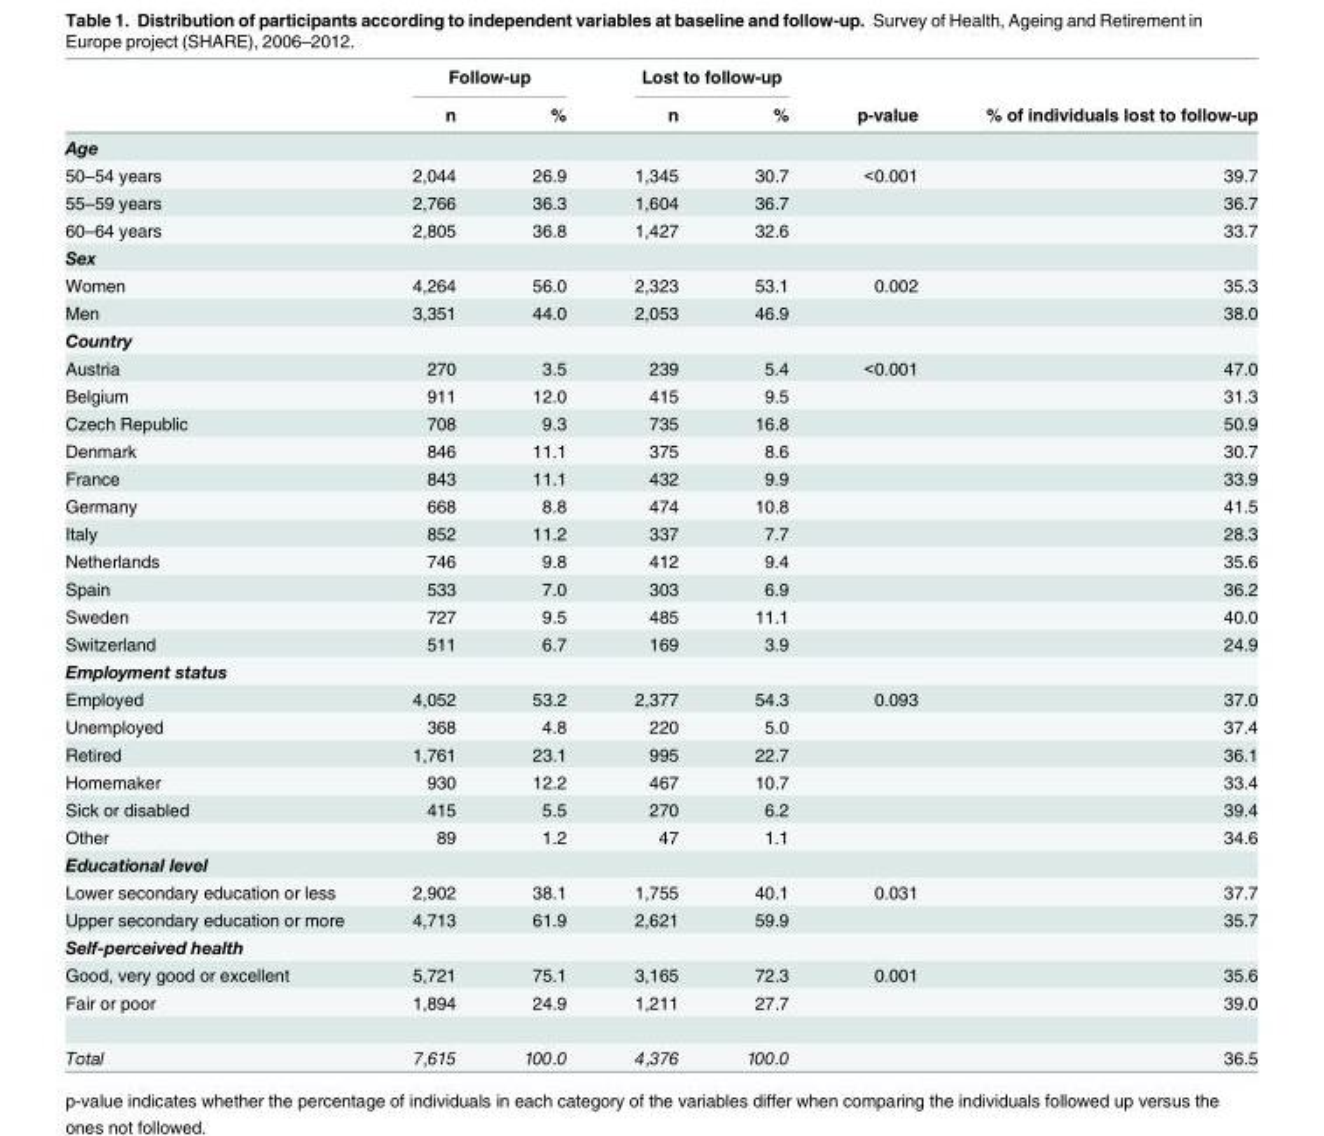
<table><thead><tr><td rowspan="2"></td><td colspan="2">Follow-up</td><td colspan="2">Lost to follow-up</td><td rowspan="2">p-value</td><td rowspan="2">% of individuals lost to follow-up</td></tr><tr><td>n</td><td>%</td><td>n</td><td>%</td></tr></thead><tbody><tr><td colspan="7">Age</td></tr><tr><td>50–54 years</td><td>2,044</td><td>26.9</td><td>1,345</td><td>30.7</td><td>&lt;0.001</td><td>39.7</td></tr><tr><td>55–59 years</td><td>2,766</td><td>36.3</td><td>1,604</td><td>36.7</td><td></td><td>36.7</td></tr><tr><td>60–64 years</td><td>2,805</td><td>36.8</td><td>1,427</td><td>32.6</td><td></td><td>33.7</td></tr><tr><td colspan="7">Sex</td></tr><tr><td>Women</td><td>4,264</td><td>56.0</td><td>2,323</td><td>53.1</td><td>0.002</td><td>35.3</td></tr><tr><td>Men</td><td>3,351</td><td>44.0</td><td>2,053</td><td>46.9</td><td></td><td>38.0</td></tr><tr><td colspan="7">Country</td></tr><tr><td>Austria</td><td>270</td><td>3.5</td><td>239</td><td>5.4</td><td>&lt;0.001</td><td>47.0</td></tr><tr><td>Belgium</td><td>911</td><td>12.0</td><td>415</td><td>9.5</td><td></td><td>31.3</td></tr><tr><td>Czech Republic</td><td>708</td><td>9.3</td><td>735</td><td>16.8</td><td></td><td>50.9</td></tr><tr><td>Denmark</td><td>846</td><td>11.1</td><td>375</td><td>8.6</td><td></td><td>30.7</td></tr><tr><td>France</td><td>843</td><td>11.1</td><td>432</td><td>9.9</td><td></td><td>33.9</td></tr><tr><td>Germany</td><td>668</td><td>8.8</td><td>474</td><td>10.8</td><td></td><td>41.5</td></tr><tr><td>Italy</td><td>852</td><td>11.2</td><td>337</td><td>7.7</td><td></td><td>28.3</td></tr><tr><td>Netherlands</td><td>746</td><td>9.8</td><td>412</td><td>9.4</td><td></td><td>35.6</td></tr><tr><td>Spain</td><td>533</td><td>7.0</td><td>303</td><td>6.9</td><td></td><td>36.2</td></tr><tr><td>Sweden</td><td>727</td><td>9.5</td><td>485</td><td>11.1</td><td></td><td>40.0</td></tr><tr><td>Switzerland</td><td>511</td><td>6.7</td><td>169</td><td>3.9</td><td></td><td>24.9</td></tr><tr><td colspan="7">Employment status</td></tr><tr><td>Employed</td><td>4,052</td><td>53.2</td><td>2,377</td><td>54.3</td><td>0.093</td><td>37.0</td></tr><tr><td>Unemployed</td><td>368</td><td>4.8</td><td>220</td><td>5.0</td><td></td><td>37.4</td></tr><tr><td>Retired</td><td>1,761</td><td>23.1</td><td>995</td><td>22.7</td><td></td><td>36.1</td></tr><tr><td>Homemaker</td><td>930</td><td>12.2</td><td>467</td><td>10.7</td><td></td><td>33.4</td></tr><tr><td>Sick or disabled</td><td>415</td><td>5.5</td><td>270</td><td>6.2</td><td></td><td>39.4</td></tr><tr><td>Other</td><td>89</td><td>1.2</td><td>47</td><td>1.1</td><td></td><td>34.6</td></tr><tr><td colspan="7">Educational level</td></tr><tr><td>Lower secondary education or less</td><td>2,902</td><td>38.1</td><td>1,755</td><td>40.1</td><td>0.031</td><td>37.7</td></tr><tr><td>Upper secondary education or more</td><td>4,713</td><td>61.9</td><td>2,621</td><td>59.9</td><td></td><td>35.7</td></tr><tr><td colspan="7">Self-perceived health</td></tr><tr><td>Good, very good or excellent</td><td>5,721</td><td>75.1</td><td>3,165</td><td>72.3</td><td>0.001</td><td>35.6</td></tr><tr><td>Fair or poor</td><td>1,894</td><td>24.9</td><td>1,211</td><td>27.7</td><td></td><td>39.0</td></tr><tr><td>Total</td><td>7,615</td><td>100.0</td><td>4,376</td><td>100.0</td><td></td><td>36.5</td></tr></tbody></table>